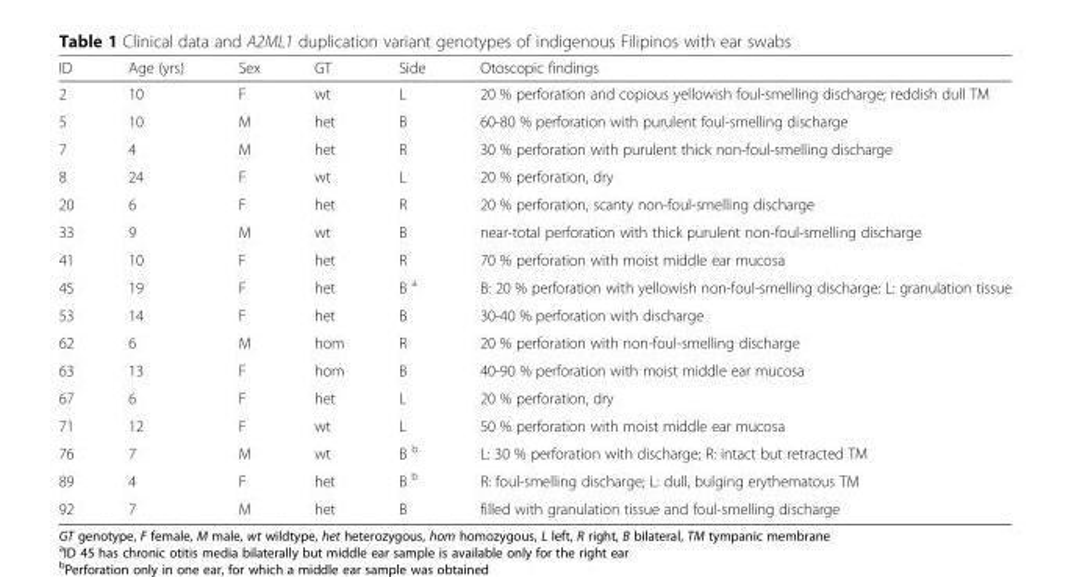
<table><thead><tr><td>ID</td><td>Age (yrs)</td><td>Sex</td><td>GT</td><td>Side</td><td>Otoscopic findings</td></tr></thead><tbody><tr><td>2</td><td>10</td><td>F</td><td>wt</td><td>L</td><td>20 % perforation and copious yellowish foul-smelling discharge; reddish dull TM</td></tr><tr><td>5</td><td>10</td><td>M</td><td>het</td><td>B</td><td>60-80 % perforation with purulent foul-smelling discharge</td></tr><tr><td>7</td><td>4</td><td>M</td><td>het</td><td>R</td><td>30 % perforation with purulent thick non-foul-smelling discharge</td></tr><tr><td>8</td><td>24</td><td>F</td><td>wt</td><td>L</td><td>20 % perforation, dry</td></tr><tr><td>20</td><td>6</td><td>F</td><td>het</td><td>R</td><td>20 % perforation, scanty non-foul-smelling discharge</td></tr><tr><td>33</td><td>9</td><td>M</td><td>wt</td><td>B</td><td>near-total perforation with thick purulent non-foul-smelling discharge</td></tr><tr><td>41</td><td>10</td><td>F</td><td>het</td><td>R</td><td>70 % perforation with moist middle ear mucosa</td></tr><tr><td>45</td><td>19</td><td>F</td><td>het</td><td>B <sup>a</sup></td><td>B: 20 % perforation with yellowish non-foul-smelling discharge: L: granulation tissue</td></tr><tr><td>53</td><td>14</td><td>F</td><td>het</td><td>B</td><td>30-40 % perforation with discharge</td></tr><tr><td>62</td><td>6</td><td>M</td><td>hom</td><td>R</td><td>20 % perforation with non-foul-smelling discharge</td></tr><tr><td>63</td><td>13</td><td>F</td><td>hom</td><td>B</td><td>40-90 % perforation with moist middle ear mucosa</td></tr><tr><td>67</td><td>6</td><td>F</td><td>het</td><td>L</td><td>20 % perforation, dry</td></tr><tr><td>71</td><td>12</td><td>F</td><td>wt</td><td>L</td><td>50 % perforation with moist middle ear mucosa</td></tr><tr><td>76</td><td>7</td><td>M</td><td>wt</td><td>B <sup>b</sup></td><td>L: 30 % perforation with discharge; R: intact but retracted TM</td></tr><tr><td>89</td><td>4</td><td>F</td><td>het</td><td>B <sup>b</sup></td><td>R: foul-smelling discharge; L: dull, bulging erythematous TM</td></tr><tr><td>92</td><td>7</td><td>M</td><td>het</td><td>B</td><td>filled with granulation tissue and foul-smelling discharge</td></tr></tbody></table>